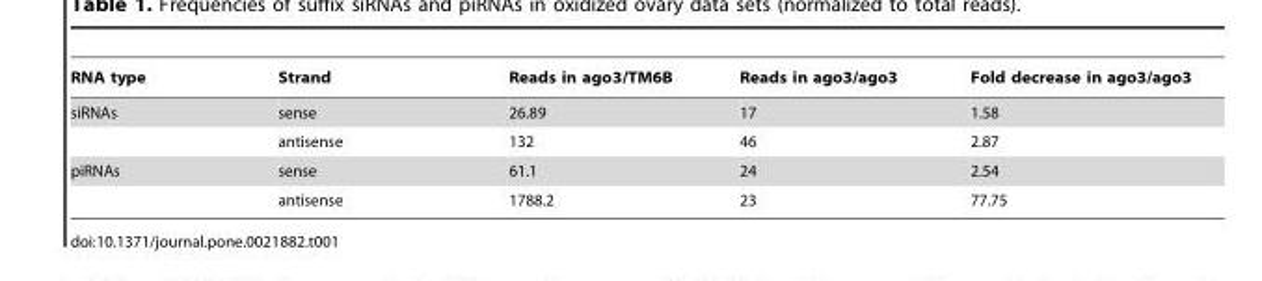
<table><thead><tr><td>RNA type</td><td>Strand</td><td>Reads in ago3/TM6B</td><td>Reads in ago3/ago3</td><td>Fold decrease in ago3/ago3</td></tr></thead><tbody><tr><td rowspan="2">siRNAs</td><td>sense</td><td>26.89</td><td>17</td><td>1.58</td></tr><tr><td>antisense</td><td>132</td><td>46</td><td>2.87</td></tr><tr><td rowspan="2">piRNAs</td><td>sense</td><td>61.1</td><td>24</td><td>2.54</td></tr><tr><td>antisense</td><td>1788.2</td><td>23</td><td>77.75</td></tr></tbody></table>